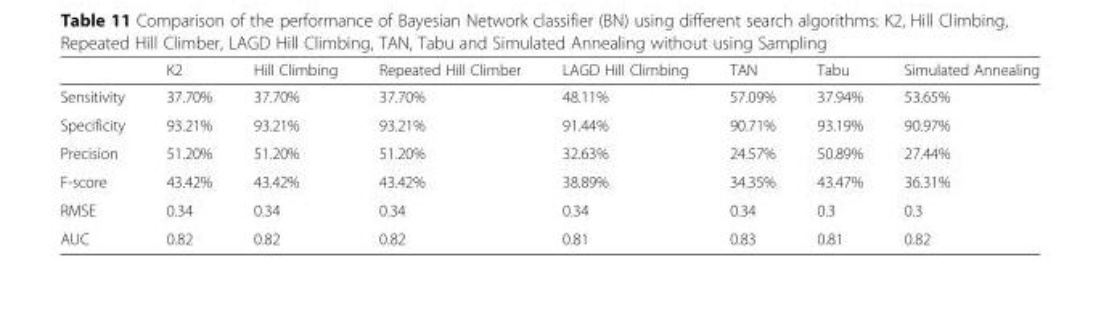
<table><thead><tr><td></td><td>K2</td><td>Hill Climbing</td><td>Repeated Hill Climber</td><td>LAGD Hill Climbing</td><td>TAN</td><td>Tabu</td><td>Simulated Annealing</td></tr></thead><tbody><tr><td>Sensitivity</td><td>37.70%</td><td>37.70%</td><td>37.70%</td><td>48.11%</td><td>57.09%</td><td>37.94%</td><td>53.65%</td></tr><tr><td>Specificity</td><td>93.21%</td><td>93.21%</td><td>93.21%</td><td>91.44%</td><td>90.71%</td><td>93.19%</td><td>90.97%</td></tr><tr><td>Precision</td><td>51.20%</td><td>51.20%</td><td>51.20%</td><td>32.63%</td><td>24.57%</td><td>50.89%</td><td>27.44%</td></tr><tr><td>F-score</td><td>43.42%</td><td>43.42%</td><td>43.42%</td><td>38.89%</td><td>34.35%</td><td>43.47%</td><td>36.31%</td></tr><tr><td>RMSE</td><td>0.34</td><td>0.34</td><td>0.34</td><td>0.34</td><td>0.34</td><td>0.3</td><td>0.3</td></tr><tr><td>AUC</td><td>0.82</td><td>0.82</td><td>0.82</td><td>0.81</td><td>0.83</td><td>0.81</td><td>0.82</td></tr></tbody></table>